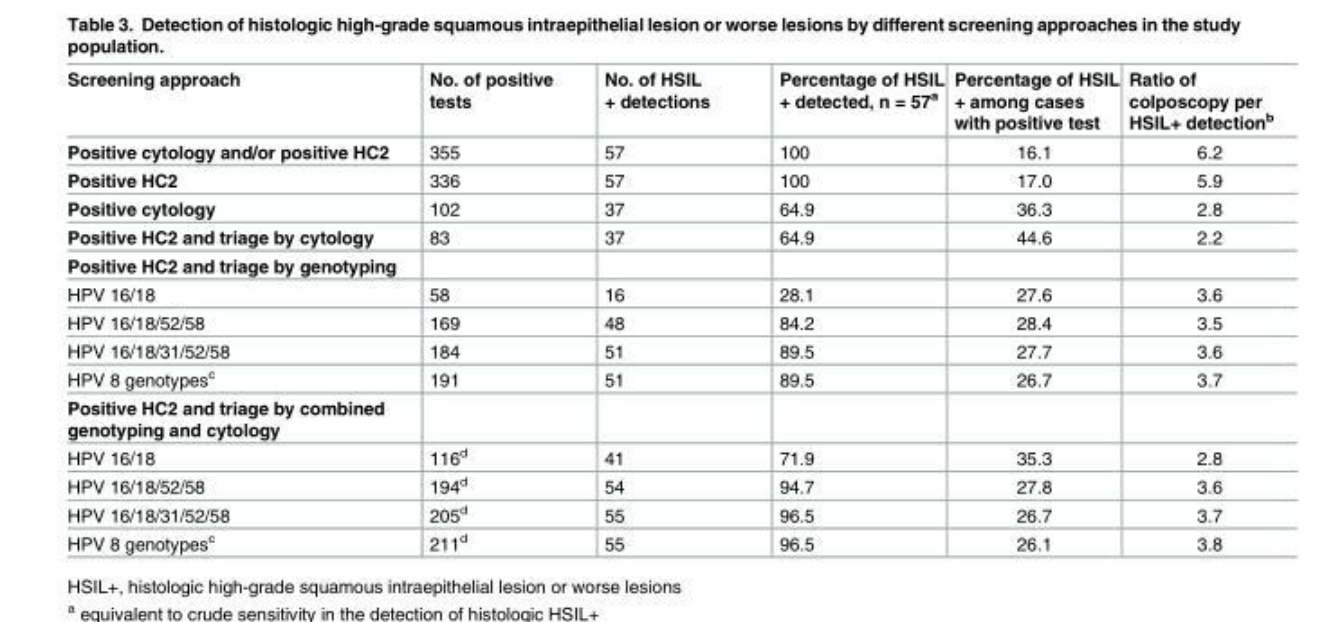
<table><thead><tr><td>Screening approach</td><td>No. of positive tests</td><td>No. of HSIL + detections</td><td>Percentage of HSIL + detected, n = 57<sup>a</sup></td><td>Percentage of HSIL + among cases with positive test</td><td>Ratio of colposcopy per HSIL+ detection<sup>b</sup></td></tr></thead><tbody><tr><td>Positive cytology and/or positive HC2</td><td>355</td><td>57</td><td>100</td><td>16.1</td><td>6.2</td></tr><tr><td>Positive HC2</td><td>336</td><td>57</td><td>100</td><td>17.0</td><td>5.9</td></tr><tr><td>Positive cytology</td><td>102</td><td>37</td><td>64.9</td><td>36.3</td><td>2.8</td></tr><tr><td>Positive HC2 and triage by cytology</td><td>83</td><td>37</td><td>64.9</td><td>44.6</td><td>2.2</td></tr><tr><td colspan="6">Positive HC2 and triage by genotyping</td></tr><tr><td>HPV 16/18</td><td>58</td><td>16</td><td>28.1</td><td>27.6</td><td>3.6</td></tr><tr><td>HPV 16/18/52/58</td><td>169</td><td>48</td><td>84.2</td><td>28.4</td><td>3.5</td></tr><tr><td>HPV 16/18/31/52/58</td><td>184</td><td>51</td><td>89.5</td><td>27.7</td><td>3.6</td></tr><tr><td>HPV 8 genotypes<sup>c</sup></td><td>191</td><td>51</td><td>89.5</td><td>26.7</td><td>3.7</td></tr><tr><td colspan="6">Positive HC2 and triage by combined genotyping and cytology</td></tr><tr><td>HPV 16/18</td><td>116<sup>d</sup></td><td>41</td><td>71.9</td><td>35.3</td><td>2.8</td></tr><tr><td>HPV 16/18/52/58</td><td>194<sup>d</sup></td><td>54</td><td>94.7</td><td>27.8</td><td>3.6</td></tr><tr><td>HPV 16/18/31/52/58</td><td>205<sup>d</sup></td><td>55</td><td>96.5</td><td>26.7</td><td>3.7</td></tr><tr><td>HPV 8 genotypes<sup>c</sup></td><td>211<sup>d</sup></td><td>55</td><td>96.5</td><td>26.1</td><td>3.8</td></tr></tbody></table>